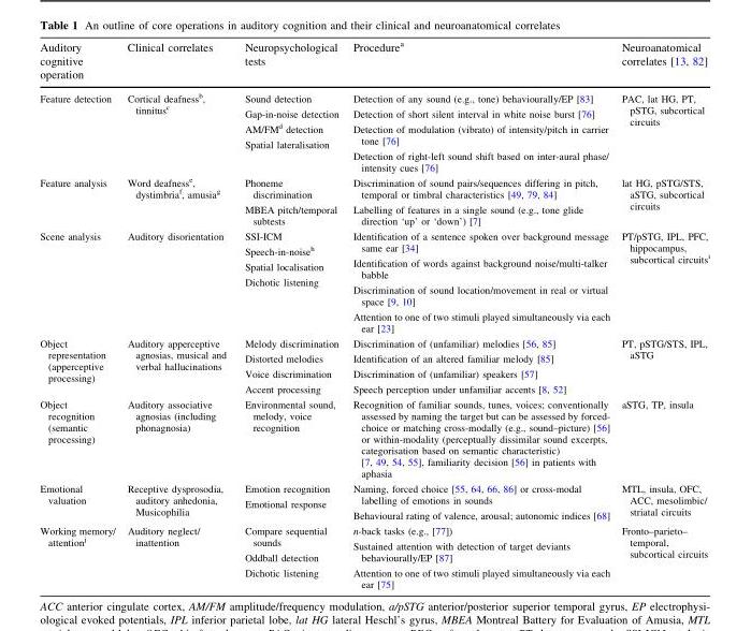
<table><thead><tr><td>Auditory cognitive operation</td><td>Clinical correlates</td><td>Neuropsychological tests</td><td>Procedure<sup>a</sup></td><td>Neuroanatomical correlates [13, 82]</td></tr></thead><tbody><tr><td>Feature detection</td><td>Cortical deafness<sup>b</sup>, tinnitus<sup>c</sup></td><td>Sound detection Gap-in-noise detection AM/FM<sup>d</sup> detection Spatial lateralisation</td><td>Detection of any sound (e.g., tone) behaviourally/EP [83] Detection of short silent interval in white noise burst [76] Detection of modulation (vibrato) of intensity/pitch in carrier tone [76] Detection of right-left sound shift based on inter-aural phase/ intensity cues [76]</td><td>PAC, lat HG, PT, pSTG, subcortical circuits</td></tr><tr><td>Feature analysis</td><td>Word deafness<sup>e</sup>, dystimbria<sup>f</sup>, amusia<sup>g</sup></td><td>Phoneme discrimination MBEA pitch/temporal subtests</td><td>Discrimination of sound pairs/sequences differing in pitch, temporal or timbral characteristics [49, 79, 84] Labelling of features in a single sound (e.g., tone glide direction ‘up’ or ‘down’) [7]</td><td>lat HG, pSTG/STS, aSTG, subcortical circuits</td></tr><tr><td>Scene analysis</td><td>Auditory disorientation</td><td>SSI-ICM Speech-in-noise<sup>h</sup> Spatial localisation Dichotic listening</td><td>Identification of a sentence spoken over background message same ear [34] Identification of words against background noise/multi-talker babble Discrimination of sound location/movement in real or virtual space [9, 10] Attention to one of two stimuli played simultaneously via each ear [23]</td><td>PT/pSTG, IPL, PFC, hippocampus, subcortical circuits<sup>i</sup></td></tr><tr><td>Object representation (apperceptive processing)</td><td>Auditory apperceptive agnosias, musical and verbal hallucinations</td><td>Melody discrimination Distorted melodies Voice discrimination Accent processing</td><td>Discrimination of (unfamiliar) melodies [56, 85] Identification of an altered familiar melody [85] Discrimination of (unfamiliar) speakers [57] Speech perception under unfamiliar accents [8, 52]</td><td>PT, pSTG/STS, IPL, aSTG</td></tr><tr><td>Object recognition (semantic processing)</td><td>Auditory associative agnosias (including phonagnosia)</td><td>Environmental sound, melody, voice recognition</td><td>Recognition of familiar sounds, tunes, voices; conventionally assessed by naming the target but can be assessed by forced- choice or matching cross-modally (e.g., sound–picture) [56] or within-modality (perceptually dissimilar sound excerpts, categorisation based on semantic characteristic) [7, 49, 54, 55], familiarity decision [56] in patients with aphasia</td><td>aSTG, TP, insula</td></tr><tr><td>Emotional valuation</td><td>Receptive dysprosodia, auditory anhedonia, Musicophilia</td><td>Emotion recognition Emotional response</td><td>Naming, forced choice [55, 64, 66, 86] or cross-modal labelling of emotions in sounds Behavioural rating of valence, arousal; autonomic indices [68]</td><td>MTL, insula, OFC, ACC, mesolimbic/ striatal circuits</td></tr><tr><td>Working memory/ attention<sup>j</sup></td><td>Auditory neglect/ inattention</td><td>Compare sequential sounds Oddball detection Dichotic listening</td><td>n-back tasks (e.g., [77]) Sustained attention with detection of target deviants behaviourally/EP [87] Attention to one of two stimuli played simultaneously via each ear [75]</td><td>Fronto–parieto– temporal, subcortical circuits</td></tr></tbody></table>